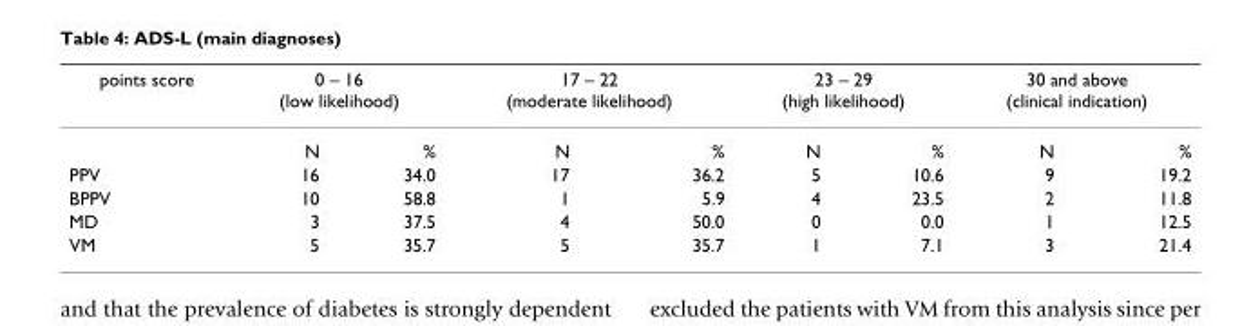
<table><thead><tr><td rowspan="2">points score</td><td colspan="2">0 – 16 (low likelihood)</td><td colspan="2">17 – 22 (moderate likelihood)</td><td colspan="2">23 – 29 (high likelihood)</td><td colspan="2">30 and above (clinical indication)</td></tr><tr><td>N</td><td>%</td><td>N</td><td>%</td><td>N</td><td>%</td><td>N</td><td>%</td></tr></thead><tbody><tr><td>PPV</td><td>16</td><td>34.0</td><td>17</td><td>36.2</td><td>5</td><td>10.6</td><td>9</td><td>19.2</td></tr><tr><td>BPPV</td><td>10</td><td>58.8</td><td>1</td><td>5.9</td><td>4</td><td>23.5</td><td>2</td><td>11.8</td></tr><tr><td>MD</td><td>3</td><td>37.5</td><td>4</td><td>50.0</td><td>0</td><td>0.0</td><td>1</td><td>12.5</td></tr><tr><td>VM</td><td>5</td><td>35.7</td><td>5</td><td>35.7</td><td>1</td><td>7.1</td><td>3</td><td>21.4</td></tr></tbody></table>